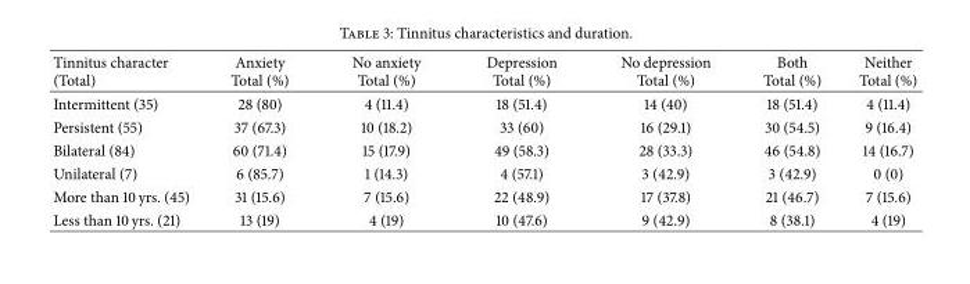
<table><thead><tr><td>Tinnitus character (Total)</td><td>Anxiety Total (%)</td><td>No anxiety Total (%)</td><td>Depression Total (%)</td><td>No depression Total (%)</td><td>Both Total (%)</td><td>Neither Total (%)</td></tr></thead><tbody><tr><td>Intermittent (35)</td><td>28 (80)</td><td>4 (11.4)</td><td>18 (51.4)</td><td>14 (40)</td><td>18 (51.4)</td><td>4 (11.4)</td></tr><tr><td>Persistent (55)</td><td>37 (67.3)</td><td>10 (18.2)</td><td>33 (60)</td><td>16 (29.1)</td><td>30 (54.5)</td><td>9 (16.4)</td></tr><tr><td>Bilateral (84)</td><td>60 (71.4)</td><td>15 (17.9)</td><td>49 (58.3)</td><td>28 (33.3)</td><td>46 (54.8)</td><td>14 (16.7)</td></tr><tr><td>Unilateral (7)</td><td>6 (85.7)</td><td>1 (14.3)</td><td>4 (57.1)</td><td>3 (42.9)</td><td>3 (42.9)</td><td>0 (0)</td></tr><tr><td>More than 10 yrs. (45)</td><td>31 (15.6)</td><td>7 (15.6)</td><td>22 (48.9)</td><td>17 (37.8)</td><td>21 (46.7)</td><td>7 (15.6)</td></tr><tr><td>Less than 10 yrs. (21)</td><td>13 (19)</td><td>4 (19)</td><td>10 (47.6)</td><td>9 (42.9)</td><td>8 (38.1)</td><td>4 (19)</td></tr></tbody></table>